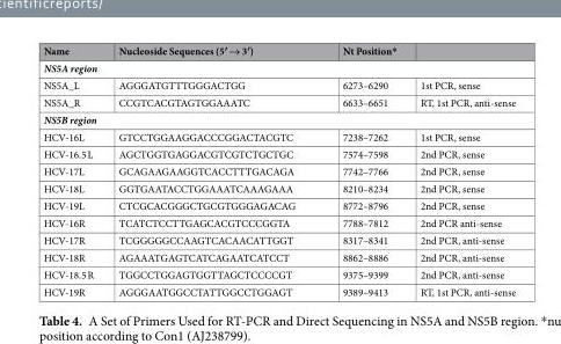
<table><thead><tr><td>Name</td><td>Nucleoside Sequences (5′ → 3′)</td><td>Nt Position*</td><td></td></tr></thead><tbody><tr><td colspan="4">NS5A region</td></tr><tr><td>NS5A_L</td><td>AGGGATGTTTGGGACTGG</td><td>6273–6290</td><td>1st PCR, sense</td></tr><tr><td>NS5A_R</td><td>CCGTCACGTAGTGGAAATC</td><td>6633–6651</td><td>RT, 1st PCR, anti-sense</td></tr><tr><td colspan="4">NS5B region</td></tr><tr><td>HCV-16L</td><td>GTCCTGGAAGGACCCGGACTACGTC</td><td>7238–7262</td><td>1st PCR, sense</td></tr><tr><td>HCV-16.5 L</td><td>AGCTGGTGAGGACGTCGTCTGCTGC</td><td>7574–7598</td><td>2nd PCR, sense</td></tr><tr><td>HCV-17L</td><td>GCAGAAGAAGGTCACCTTTGACAGA</td><td>7742–7766</td><td>2nd PCR, sense</td></tr><tr><td>HCV-18L</td><td>GGTGAATACCTGGAAATCAAAGAAA</td><td>8210–8234</td><td>2nd PCR, sense</td></tr><tr><td>HCV-19L</td><td>CTCGCACGGGCTGCGTGGGAGACAG</td><td>8772–8796</td><td>2nd PCR, sense</td></tr><tr><td>HCV-16R</td><td>TCATCTCCTTGAGCACGTCCCGGTA</td><td>7788–7812</td><td>2nd PCR anti-sense</td></tr><tr><td>HCV-17R</td><td>TCGGGGGCCAAGTCACAACATTGGT</td><td>8317–8341</td><td>2nd PCR, anti-sense</td></tr><tr><td>HCV-18R</td><td>AGAAATGAGTCATCAGAATCATCCT</td><td>8862–8886</td><td>2nd PCR, anti-sense</td></tr><tr><td>HCV-18.5 R</td><td>TGGCCTGGAGTGGTTAGCTCCCCGT</td><td>9375–9399</td><td>2nd PCR, anti-sense</td></tr><tr><td>HCV-19R</td><td>AGGGAATGGCCTATTGGCCTGGAGT</td><td>9389–9413</td><td>RT, 1st PCR, anti-sense</td></tr></tbody></table>